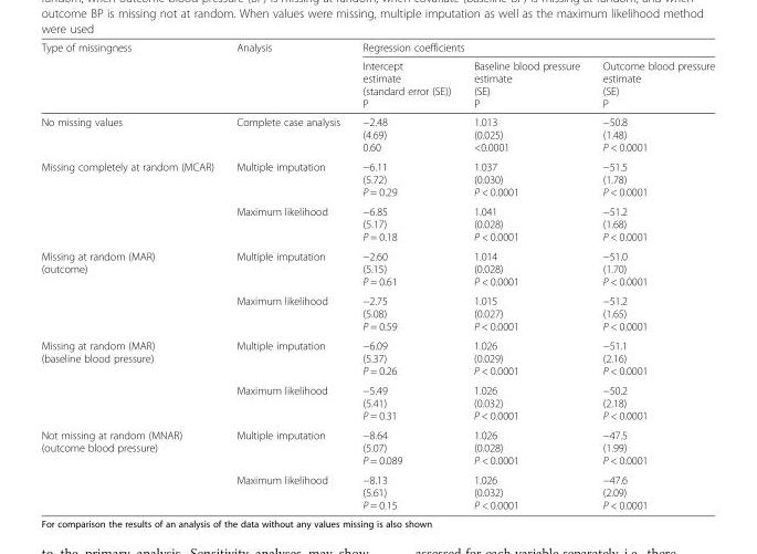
<table><thead><tr><td rowspan="2">Type of missingness</td><td rowspan="2">Analysis</td><td colspan="3">Regression coefficients</td></tr><tr><td>Intercept estimate (standard error (SE)) P</td><td>Baseline blood pressure estimate (SE) P</td><td>Outcome blood pressure estimate (SE) P</td></tr></thead><tbody><tr><td>No missing values</td><td>Complete case analysis</td><td>−2.48 (4.69) 0.60</td><td>1.013 (0.025) &lt;0.0001</td><td>−50.8 (1.48) P &lt; 0.0001</td></tr><tr><td rowspan="2">Missing completely at random (MCAR)</td><td>Multiple imputation</td><td>−6.11 (5.72) P = 0.29</td><td>1.037 (0.030) P &lt; 0.0001</td><td>−51.5 (1.78) P &lt; 0.0001</td></tr><tr><td>Maximum likelihood</td><td>−6.85 (5.17) P = 0.18</td><td>1.041 (0.028) P &lt; 0.0001</td><td>−51.2 (1.68) P &lt; 0.0001</td></tr><tr><td rowspan="2">Missing at random (MAR) (outcome)</td><td>Multiple imputation</td><td>−2.60 (5.15) P = 0.61</td><td>1.014 (0.028) P &lt; 0.0001</td><td>−51.0 (1.70) P &lt; 0.0001</td></tr><tr><td>Maximum likelihood</td><td>−2.75 (5.08) P = 0.59</td><td>1.015 (0.027) P &lt; 0.0001</td><td>−51.2 (1.65) P &lt; 0.0001</td></tr><tr><td rowspan="2">Missing at random (MAR) (baseline blood pressure)</td><td>Multiple imputation</td><td>−6.09 (5.37) P = 0.26</td><td>1.026 (0.029) P &lt; 0.0001</td><td>−51.1 (2.16) P &lt; 0.0001</td></tr><tr><td>Maximum likelihood</td><td>−5.49 (5.41) P = 0.31</td><td>1.026 (0.032) P &lt; 0.0001</td><td>−50.2 (2.18) P &lt; 0.0001</td></tr><tr><td rowspan="2">Not missing at random (MNAR) (outcome blood pressure)</td><td>Multiple imputation</td><td>−8.64 (5.07) P = 0.089</td><td>1.026 (0.028) P &lt; 0.0001</td><td>−47.5 (1.99) P &lt; 0.0001</td></tr><tr><td>Maximum likelihood</td><td>−8.13 (5.61) P = 0.15</td><td>1.026 (0.032) P &lt; 0.0001</td><td>−47.6 (2.09) P &lt; 0.0001</td></tr></tbody></table>